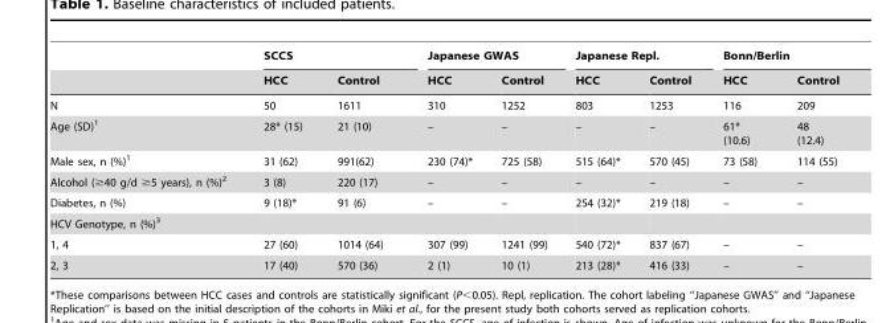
<table><thead><tr><td rowspan="2"></td><td colspan="2">SCCS</td><td colspan="2">Japanese GWAS</td><td colspan="2">Japanese Repl.</td><td colspan="2">Bonn/Berlin</td></tr><tr><td>HCC</td><td>Control</td><td>HCC</td><td>Control</td><td>HCC</td><td>Control</td><td>HCC</td><td>Control</td></tr></thead><tbody><tr><td>N</td><td>50</td><td>1611</td><td>310</td><td>1252</td><td>803</td><td>1253</td><td>116</td><td>209</td></tr><tr><td>Age (SD)<sup>1</sup></td><td>28* (15)</td><td>21 (10)</td><td>–</td><td>–</td><td>–</td><td>–</td><td>61* (10.6)</td><td>48 (12.4)</td></tr><tr><td>Male sex, n (%)<sup>1</sup></td><td>31 (62)</td><td>991(62)</td><td>230 (74)*</td><td>725 (58)</td><td>515 (64)*</td><td>570 (45)</td><td>73 (58)</td><td>114 (55)</td></tr><tr><td>Alcohol (≥40 g/d ≥5 years), n (%)<sup>2</sup></td><td>3 (8)</td><td>220 (17)</td><td>–</td><td>–</td><td>–</td><td>–</td><td>–</td><td>–</td></tr><tr><td>Diabetes, n (%)</td><td>9 (18)*</td><td>91 (6)</td><td>–</td><td>–</td><td>254 (32)*</td><td>219 (18)</td><td>–</td><td>–</td></tr><tr><td colspan="9">HCV Genotype, n (%)<sup>3</sup></td></tr><tr><td>1, 4</td><td>27 (60)</td><td>1014 (64)</td><td>307 (99)</td><td>1241 (99)</td><td>540 (72)*</td><td>837 (67)</td><td>–</td><td>–</td></tr><tr><td>2, 3</td><td>17 (40)</td><td>570 (36)</td><td>2 (1)</td><td>10 (1)</td><td>213 (28)*</td><td>416 (33)</td><td>–</td><td>–</td></tr></tbody></table>